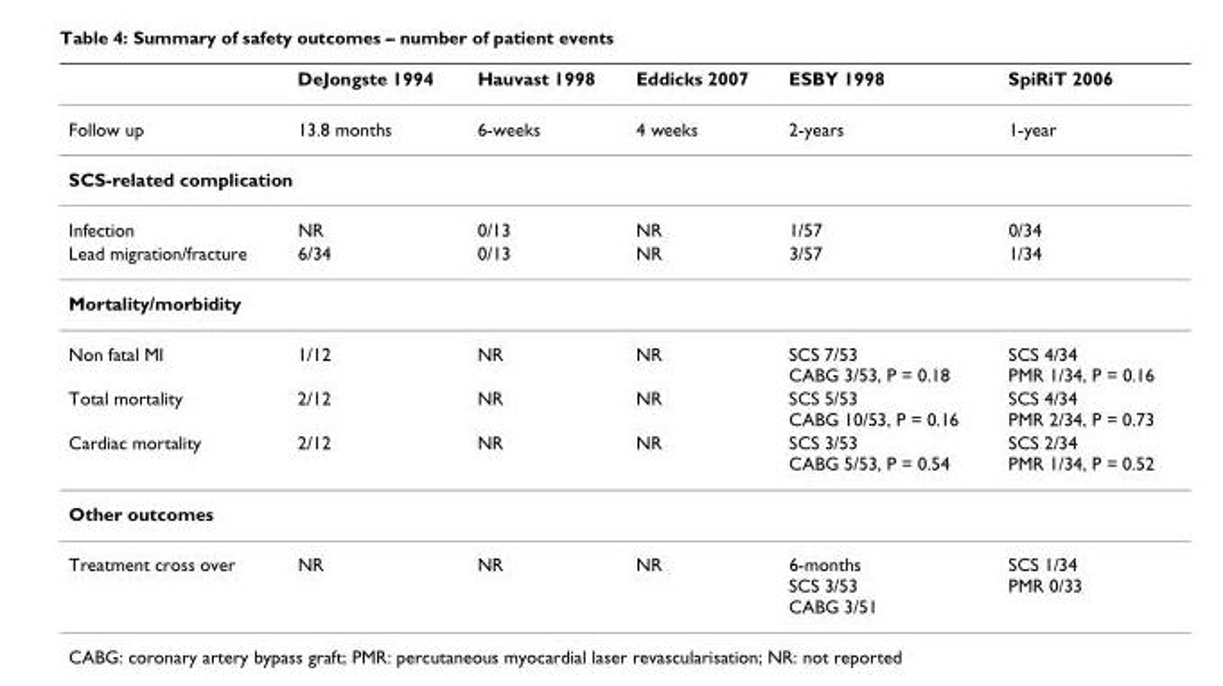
<table><thead><tr><td></td><td>DeJongste 1994</td><td>Hauvast 1998</td><td>Eddicks 2007</td><td>ESBY 1998</td><td>SpiRiT 2006</td></tr></thead><tbody><tr><td>Follow up</td><td>13.8 months</td><td>6-weeks</td><td>4 weeks</td><td>2-years</td><td>1-year</td></tr><tr><td colspan="6">SCS-related complication</td></tr><tr><td>Infection</td><td>NR</td><td>0/13</td><td>NR</td><td>1/57</td><td>0/34</td></tr><tr><td>Lead migration/fracture</td><td>6/34</td><td>0/13</td><td>NR</td><td>3/57</td><td>1/34</td></tr><tr><td colspan="6">Mortality/morbidity</td></tr><tr><td>Non fatal MI</td><td>1/12</td><td>NR</td><td>NR</td><td>SCS 7/53 CABG 3/53, P = 0.18</td><td>SCS 4/34 PMR 1/34, P = 0.16</td></tr><tr><td>Total mortality</td><td>2/12</td><td>NR</td><td>NR</td><td>SCS 5/53 CABG 10/53, P = 0.16</td><td>SCS 4/34 PMR 2/34, P = 0.73</td></tr><tr><td>Cardiac mortality</td><td>2/12</td><td>NR</td><td>NR</td><td>SCS 3/53 CABG 5/53, P = 0.54</td><td>SCS 2/34 PMR 1/34, P = 0.52</td></tr><tr><td colspan="6">Other outcomes</td></tr><tr><td>Treatment cross over</td><td>NR</td><td>NR</td><td>NR</td><td>6-months SCS 3/53 CABG 3/51</td><td>SCS 1/34 PMR 0/33</td></tr></tbody></table>